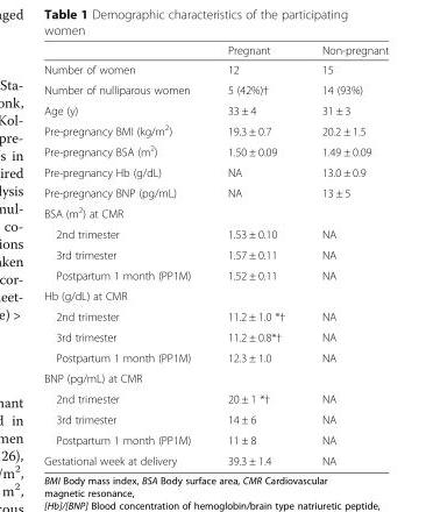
<table><thead><tr><td></td><td>Pregnant</td><td>Non-pregnant</td></tr></thead><tbody><tr><td>Number of women</td><td>12</td><td>15</td></tr><tr><td>Number of nulliparous women</td><td>5 (42%)†</td><td>14 (93%)</td></tr><tr><td>Age (y)</td><td>33 ± 4</td><td>31 ± 3</td></tr><tr><td>Pre-pregnancy BMI (kg/m<sup>2</sup>)</td><td>19.3 ± 0.7</td><td>20.2 ± 1.5</td></tr><tr><td>Pre-pregnancy BSA (m<sup>2</sup>)</td><td>1.50 ± 0.09</td><td>1.49 ± 0.09</td></tr><tr><td>Pre-pregnancy Hb (g/dL)</td><td>NA</td><td>13.0 ± 0.9</td></tr><tr><td>Pre-pregnancy BNP (pg/mL)</td><td>NA</td><td>13 ± 5</td></tr><tr><td colspan="3">BSA (m<sup>2</sup>) at CMR</td></tr><tr><td>2nd trimester</td><td>1.53 ± 0.10</td><td>NA</td></tr><tr><td>3rd trimester</td><td>1.57 ± 0.11</td><td>NA</td></tr><tr><td>Postpartum 1 month (PP1M)</td><td>1.52 ± 0.11</td><td>NA</td></tr><tr><td colspan="3">Hb (g/dL) at CMR</td></tr><tr><td>2nd trimester</td><td>11.2 ± 1.0 *†</td><td>NA</td></tr><tr><td>3rd trimester</td><td>11.2 ± 0.8*†</td><td>NA</td></tr><tr><td>Postpartum 1 month (PP1M)</td><td>12.3 ± 1.0</td><td>NA</td></tr><tr><td colspan="3">BNP (pg/mL) at CMR</td></tr><tr><td>2nd trimester</td><td>20 ± 1 *†</td><td>NA</td></tr><tr><td>3rd trimester</td><td>14 ± 6</td><td>NA</td></tr><tr><td>Postpartum 1 month (PP1M)</td><td>11 ± 8</td><td>NA</td></tr><tr><td>Gestational week at delivery</td><td>39.3 ± 1.4</td><td>NA</td></tr></tbody></table>